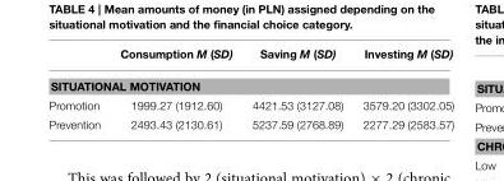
<table><thead><tr><td></td><td>Consumption M (SD)</td><td>Saving M (SD)</td><td>Investing M (SD)</td></tr></thead><tbody><tr><td colspan="4">SITUATIONAL MOTIVATION</td></tr><tr><td>Promotion</td><td>1999.27 (1912.60)</td><td>4421.53 (3127.08)</td><td>3579.20 (3302.05)</td></tr><tr><td>Prevention</td><td>2493.43 (2130.61)</td><td>5237.59 (2768.89)</td><td>2277.29 (2583.57)</td></tr></tbody></table>